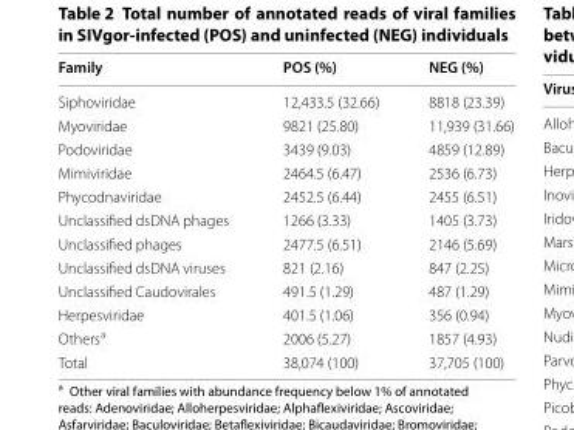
<table><thead><tr><td>Family</td><td>POS (%)</td><td>NEG (%)</td></tr></thead><tbody><tr><td>Siphoviridae</td><td>12,433.5 (32.66)</td><td>8818 (23.39)</td></tr><tr><td>Myoviridae</td><td>9821 (25.80)</td><td>11,939 (31.66)</td></tr><tr><td>Podoviridae</td><td>3439 (9.03)</td><td>4859 (12.89)</td></tr><tr><td>Mimiviridae</td><td>2464.5 (6.47)</td><td>2536 (6.73)</td></tr><tr><td>Phycodnaviridae</td><td>2452.5 (6.44)</td><td>2455 (6.51)</td></tr><tr><td>Unclassified dsDNA phages</td><td>1266 (3.33)</td><td>1405 (3.73)</td></tr><tr><td>Unclassified phages</td><td>2477.5 (6.51)</td><td>2146 (5.69)</td></tr><tr><td>Unclassified dsDNA viruses</td><td>821 (2.16)</td><td>847 (2.25)</td></tr><tr><td>Unclassified Caudovirales</td><td>491.5 (1.29)</td><td>487 (1.29)</td></tr><tr><td>Herpesviridae</td><td>401.5 (1.06)</td><td>356 (0.94)</td></tr><tr><td>Others<sup>a</sup></td><td>2006 (5.27)</td><td>1857 (4.93)</td></tr><tr><td>Total</td><td>38,074 (100)</td><td>37,705 (100)</td></tr></tbody></table>